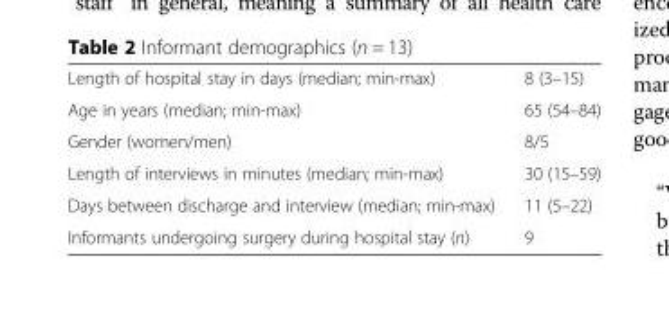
<table><tbody><tr><td>Length of hospital stay in days (median; min-max)</td><td>8 (3–15)</td></tr><tr><td>Age in years (median; min-max)</td><td>65 (54–84)</td></tr><tr><td>Gender (women/men)</td><td>8/5</td></tr><tr><td>Length of interviews in minutes (median; min-max)</td><td>30 (15–59)</td></tr><tr><td>Days between discharge and interview (median; min-max)</td><td>11 (5–22)</td></tr><tr><td>Informants undergoing surgery during hospital stay (n)</td><td>9</td></tr></tbody></table>